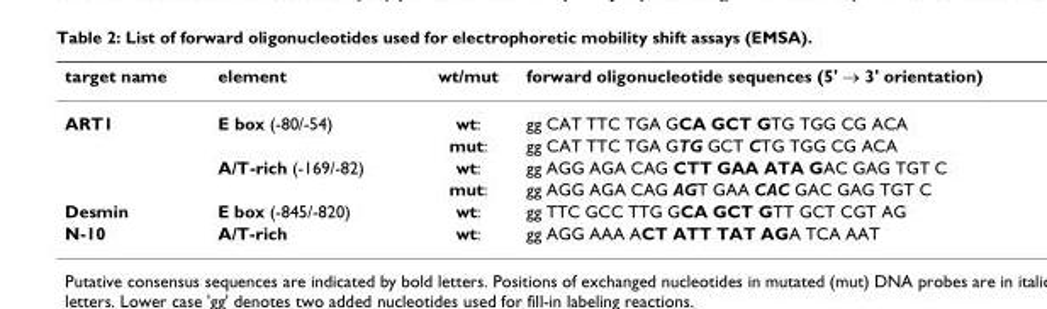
<table><thead><tr><td>target name</td><td>element</td><td>wt/mut</td><td>forward oligonucleotide sequences (5&#x27; → 3&#x27; orientation)</td></tr></thead><tbody><tr><td rowspan="4">ART1</td><td>E box (-80/-54)</td><td>wt:</td><td>gg CAT TTC TGA GCA GCT GTG TGG CG ACA</td></tr><tr><td></td><td>mut:</td><td>gg CAT TTC TGA GTG GCT CTG TGG CG ACA</td></tr><tr><td>A/T-rich (-169/-82)</td><td>wt:</td><td>gg AGG AGA CAG CTT GAA ATA GAC GAG TGT C</td></tr><tr><td></td><td>mut:</td><td>gg AGG AGA CAG AGT GAA CAC GAC GAG TGT C</td></tr><tr><td>Desmin</td><td>E box (-845/-820)</td><td>wt:</td><td>gg TTC GCC TTG GCA GCT GTT GCT CGT AG</td></tr><tr><td>N-10</td><td>A/T-rich</td><td>wt:</td><td>gg AGG AAA ACT ATT TAT AGA TCA AAT</td></tr></tbody></table>